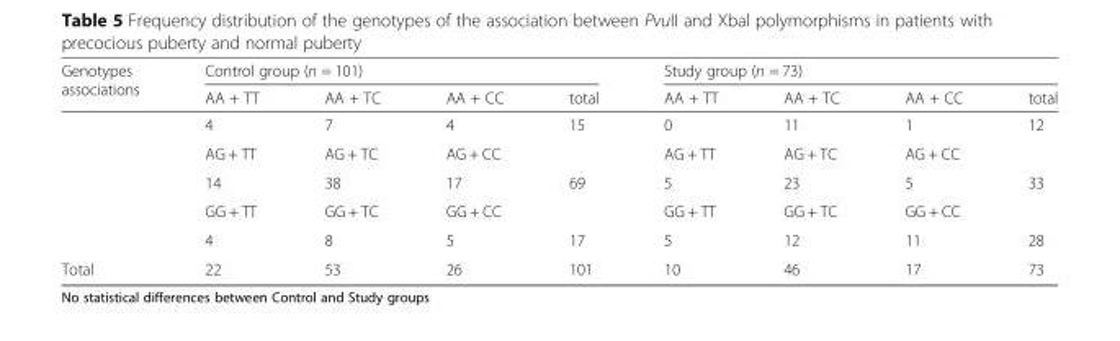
<table><thead><tr><td rowspan="2">Genotypes associations</td><td colspan="4">Control group (n = 101)</td><td colspan="4">Study group (n = 73)</td></tr><tr><td>AA + TT</td><td>AA + TC</td><td>AA + CC</td><td>total</td><td>AA + TT</td><td>AA + TC</td><td>AA + CC</td><td>total</td></tr></thead><tbody><tr><td></td><td>4</td><td>7</td><td>4</td><td>15</td><td>0</td><td>11</td><td>1</td><td>12</td></tr><tr><td></td><td>AG + TT</td><td>AG + TC</td><td>AG + CC</td><td></td><td>AG + TT</td><td>AG + TC</td><td>AG + CC</td><td></td></tr><tr><td></td><td>14</td><td>38</td><td>17</td><td>69</td><td>5</td><td>23</td><td>5</td><td>33</td></tr><tr><td></td><td>GG + TT</td><td>GG + TC</td><td>GG + CC</td><td></td><td>GG + TT</td><td>GG + TC</td><td>GG + CC</td><td></td></tr><tr><td></td><td>4</td><td>8</td><td>5</td><td>17</td><td>5</td><td>12</td><td>11</td><td>28</td></tr><tr><td>Total</td><td>22</td><td>53</td><td>26</td><td>101</td><td>10</td><td>46</td><td>17</td><td>73</td></tr></tbody></table>